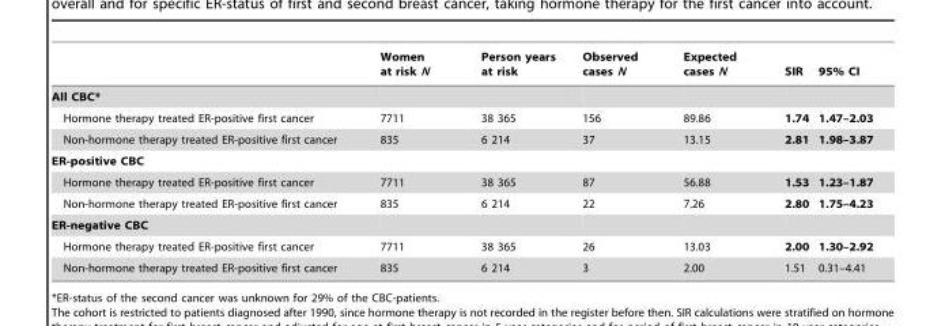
<table><thead><tr><td></td><td>Women at risk N</td><td>Person years at risk</td><td>Observed cases N</td><td>Expected cases N</td><td>SIR</td><td>95% CI</td></tr></thead><tbody><tr><td colspan="7">All CBC*</td></tr><tr><td>Hormone therapy treated ER-positive first cancer</td><td>7711</td><td>38 365</td><td>156</td><td>89.86</td><td>1.74</td><td>1.47–2.03</td></tr><tr><td>Non-hormone therapy treated ER-positive first cancer</td><td>835</td><td>6 214</td><td>37</td><td>13.15</td><td>2.81</td><td>1.98–3.87</td></tr><tr><td colspan="7">ER-positive CBC</td></tr><tr><td>Hormone therapy treated ER-positive first cancer</td><td>7711</td><td>38 365</td><td>87</td><td>56.88</td><td>1.53</td><td>1.23–1.87</td></tr><tr><td>Non-hormone therapy treated ER-positive first cancer</td><td>835</td><td>6 214</td><td>22</td><td>7.26</td><td>2.80</td><td>1.75–4.23</td></tr><tr><td colspan="7">ER-negative CBC</td></tr><tr><td>Hormone therapy treated ER-positive first cancer</td><td>7711</td><td>38 365</td><td>26</td><td>13.03</td><td>2.00</td><td>1.30–2.92</td></tr><tr><td>Non-hormone therapy treated ER-positive first cancer</td><td>835</td><td>6 214</td><td>3</td><td>2.00</td><td>1.51</td><td>0.31–4.41</td></tr></tbody></table>